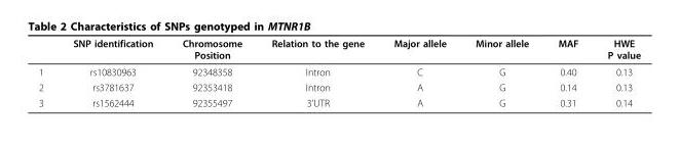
<table><thead><tr><td></td><td>SNP identification</td><td>Chromosome Position</td><td>Relation to the gene</td><td>Major allele</td><td>Minor allele</td><td>MAF</td><td>HWE P value</td></tr></thead><tbody><tr><td>1</td><td>rs10830963</td><td>92348358</td><td>Intron</td><td>C</td><td>G</td><td>0.40</td><td>0.13</td></tr><tr><td>2</td><td>rs3781637</td><td>92353418</td><td>Intron</td><td>A</td><td>G</td><td>0.14</td><td>0.13</td></tr><tr><td>3</td><td>rs1562444</td><td>92355497</td><td>3’UTR</td><td>A</td><td>G</td><td>0.31</td><td>0.14</td></tr></tbody></table>